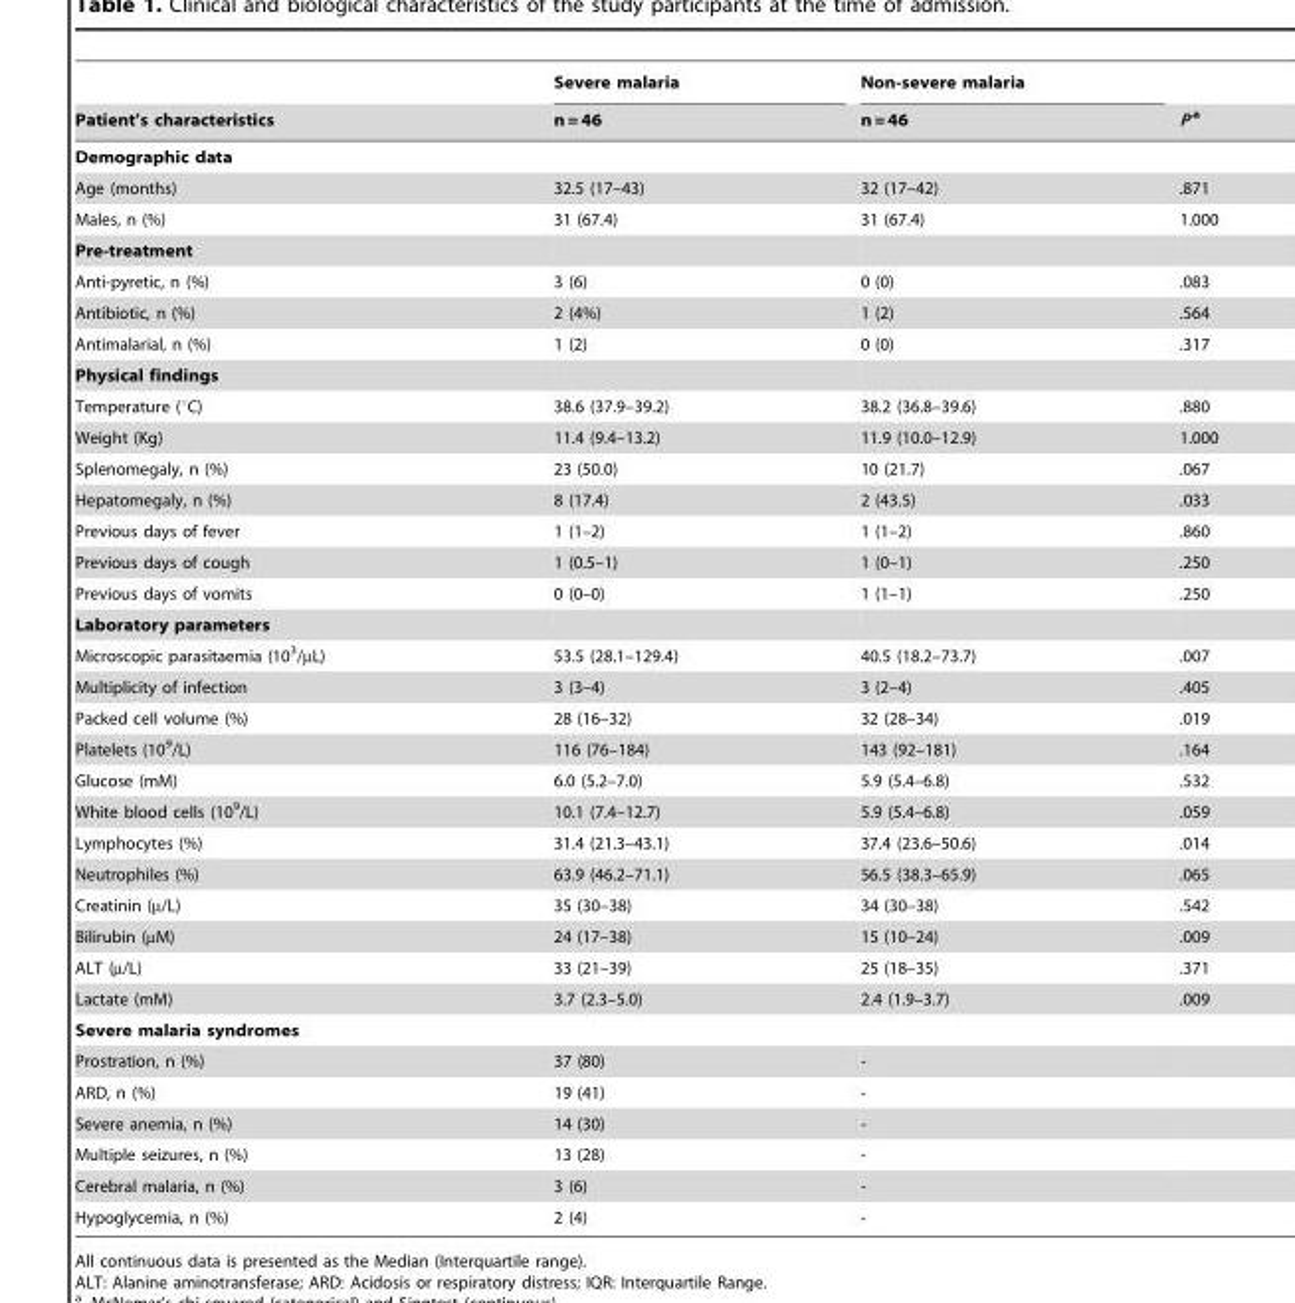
<table><thead><tr><td rowspan="2">Patient’s characteristics</td><td rowspan="2">Severe malaria n = 46</td><td rowspan="2">Non-severe malaria n = 46</td><td rowspan="2">P a</td></tr><tr></tr></thead><tbody><tr><td colspan="4">Demographic data</td></tr><tr><td>Age (months)</td><td>32.5 (17–43)</td><td>32 (17–42)</td><td>.871</td></tr><tr><td>Males, n (%)</td><td>31 (67.4)</td><td>31 (67.4)</td><td>1.000</td></tr><tr><td colspan="4">Pre-treatment</td></tr><tr><td>Anti-pyretic, n (%)</td><td>3 (6)</td><td>0 (0)</td><td>.083</td></tr><tr><td>Antibiotic, n (%)</td><td>2 (4%)</td><td>1 (2)</td><td>.564</td></tr><tr><td>Antimalarial, n (%)</td><td>1 (2)</td><td>0 (0)</td><td>.317</td></tr><tr><td colspan="4">Physical findings</td></tr><tr><td>Temperature (°C)</td><td>38.6 (37.9–39.2)</td><td>38.2 (36.8–39.6)</td><td>.880</td></tr><tr><td>Weight (Kg)</td><td>11.4 (9.4–13.2)</td><td>11.9 (10.0–12.9)</td><td>1.000</td></tr><tr><td>Splenomegaly, n (%)</td><td>23 (50.0)</td><td>10 (21.7)</td><td>.067</td></tr><tr><td>Hepatomegaly, n (%)</td><td>8 (17.4)</td><td>2 (43.5)</td><td>.033</td></tr><tr><td>Previous days of fever</td><td>1 (1–2)</td><td>1 (1–2)</td><td>.860</td></tr><tr><td>Previous days of cough</td><td>1 (0.5–1)</td><td>1 (0–1)</td><td>.250</td></tr><tr><td>Previous days of vomits</td><td>0 (0–0)</td><td>1 (1–1)</td><td>.250</td></tr><tr><td colspan="4">Laboratory parameters</td></tr><tr><td>Microscopic parasitaemia (10<sup>3</sup>/µL)</td><td>53.5 (28.1–129.4)</td><td>40.5 (18.2–73.7)</td><td>.007</td></tr><tr><td>Multiplicity of infection</td><td>3 (3–4)</td><td>3 (2–4)</td><td>.405</td></tr><tr><td>Packed cell volume (%)</td><td>28 (16–32)</td><td>32 (28–34)</td><td>.019</td></tr><tr><td>Platelets (10<sup>9</sup>/L)</td><td>116 (76–184)</td><td>143 (92–181)</td><td>.164</td></tr><tr><td>Glucose (mM)</td><td>6.0 (5.2–7.0)</td><td>5.9 (5.4–6.8)</td><td>.532</td></tr><tr><td>White blood cells (10<sup>9</sup>/L)</td><td>10.1 (7.4–12.7)</td><td>5.9 (5.4–6.8)</td><td>.059</td></tr><tr><td>Lymphocytes (%)</td><td>31.4 (21.3–43.1)</td><td>37.4 (23.6–50.6)</td><td>.014</td></tr><tr><td>Neutrophiles (%)</td><td>63.9 (46.2–71.1)</td><td>56.5 (38.3–65.9)</td><td>.065</td></tr><tr><td>Creatinin (µ/L)</td><td>35 (30–38)</td><td>34 (30–38)</td><td>.542</td></tr><tr><td>Bilirubin (µM)</td><td>24 (17–38)</td><td>15 (10–24)</td><td>.009</td></tr><tr><td>ALT (µ/L)</td><td>33 (21–39)</td><td>25 (18–35)</td><td>.371</td></tr><tr><td>Lactate (mM)</td><td>3.7 (2.3–5.0)</td><td>2.4 (1.9–3.7)</td><td>.009</td></tr><tr><td colspan="4">Severe malaria syndromes</td></tr><tr><td>Prostration, n (%)</td><td>37 (80)</td><td>-</td><td></td></tr><tr><td>ARD, n (%)</td><td>19 (41)</td><td>-</td><td></td></tr><tr><td>Severe anemia, n (%)</td><td>14 (30)</td><td>-</td><td></td></tr><tr><td>Multiple seizures, n (%)</td><td>13 (28)</td><td>-</td><td></td></tr><tr><td>Cerebral malaria, n (%)</td><td>3 (6)</td><td>-</td><td></td></tr><tr><td>Hypoglycemia, n (%)</td><td>2 (4)</td><td>-</td><td></td></tr></tbody></table>